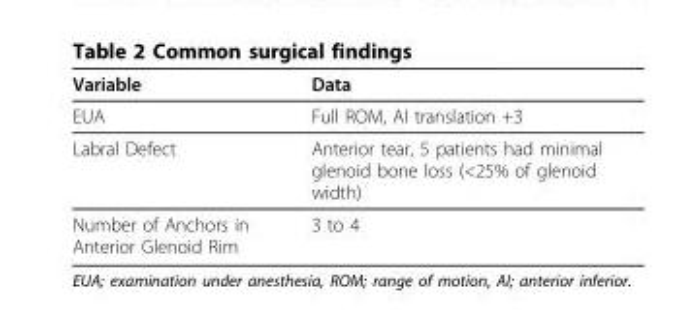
<table><thead><tr><td>Variable</td><td>Data</td></tr></thead><tbody><tr><td>EUA</td><td>Full ROM, AI translation +3</td></tr><tr><td>Labral Defect</td><td>Anterior tear, 5 patients had minimal glenoid bone loss (&lt;25% of glenoid width)</td></tr><tr><td>Number of Anchors in Anterior Glenoid Rim</td><td>3 to 4</td></tr></tbody></table>